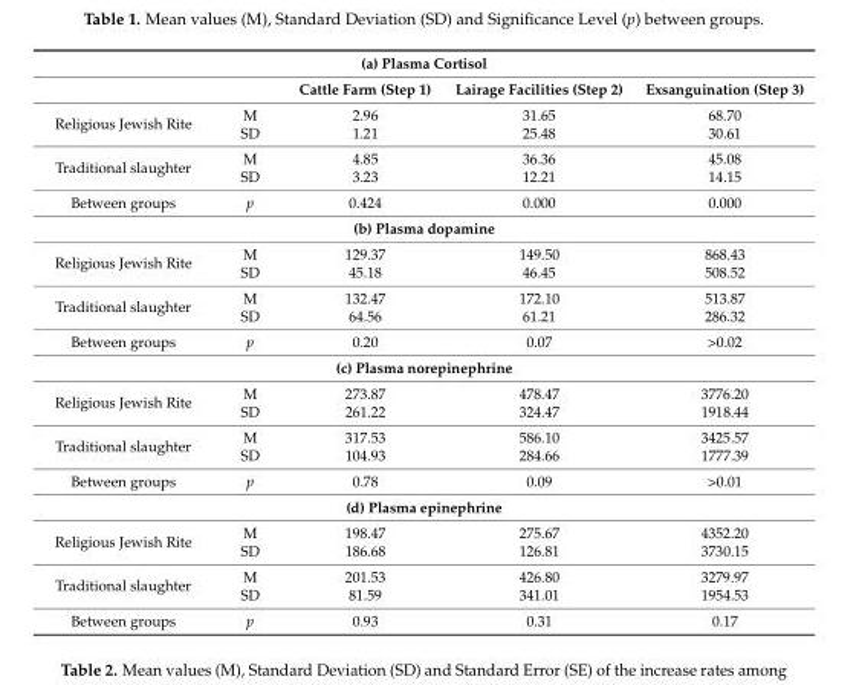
<table><tbody><tr><td colspan="5">(a) Plasma Cortisol</td></tr><tr><td colspan="2"></td><td>Cattle Farm (Step 1)</td><td>Lairage Facilities (Step 2)</td><td>Exsanguination (Step 3)</td></tr><tr><td rowspan="2">Religious Jewish Rite</td><td>M</td><td>2.96</td><td>31.65</td><td>68.70</td></tr><tr><td>SD</td><td>1.21</td><td>25.48</td><td>30.61</td></tr><tr><td rowspan="2">Traditional slaughter</td><td>M</td><td>4.85</td><td>36.36</td><td>45.08</td></tr><tr><td>SD</td><td>3.23</td><td>12.21</td><td>14.15</td></tr><tr><td>Between groups</td><td>p</td><td>0.424</td><td>0.000</td><td>0.000</td></tr><tr><td colspan="5">(b) Plasma dopamine</td></tr><tr><td rowspan="2">Religious Jewish Rite</td><td>M</td><td>129.37</td><td>149.50</td><td>868.43</td></tr><tr><td>SD</td><td>45.18</td><td>46.45</td><td>508.52</td></tr><tr><td rowspan="2">Traditional slaughter</td><td>M</td><td>132.47</td><td>172.10</td><td>513.87</td></tr><tr><td>SD</td><td>64.56</td><td>61.21</td><td>286.32</td></tr><tr><td>Between groups</td><td>p</td><td>0.20</td><td>0.07</td><td>&gt;0.02</td></tr><tr><td colspan="5">(c) Plasma norepinephrine</td></tr><tr><td rowspan="2">Religious Jewish Rite</td><td>M</td><td>273.87</td><td>478.47</td><td>3776.20</td></tr><tr><td>SD</td><td>261.22</td><td>324.47</td><td>1918.44</td></tr><tr><td rowspan="2">Traditional slaughter</td><td>M</td><td>317.53</td><td>586.10</td><td>3425.57</td></tr><tr><td>SD</td><td>104.93</td><td>284.66</td><td>1777.39</td></tr><tr><td>Between groups</td><td>p</td><td>0.78</td><td>0.09</td><td>&gt;0.01</td></tr><tr><td colspan="5">(d) Plasma epinephrine</td></tr><tr><td rowspan="2">Religious Jewish Rite</td><td>M</td><td>198.47</td><td>275.67</td><td>4352.20</td></tr><tr><td>SD</td><td>186.68</td><td>126.81</td><td>3730.15</td></tr><tr><td rowspan="2">Traditional slaughter</td><td>M</td><td>201.53</td><td>426.80</td><td>3279.97</td></tr><tr><td>SD</td><td>81.59</td><td>341.01</td><td>1954.53</td></tr><tr><td>Between groups</td><td>p</td><td>0.93</td><td>0.31</td><td>0.17</td></tr></tbody></table>